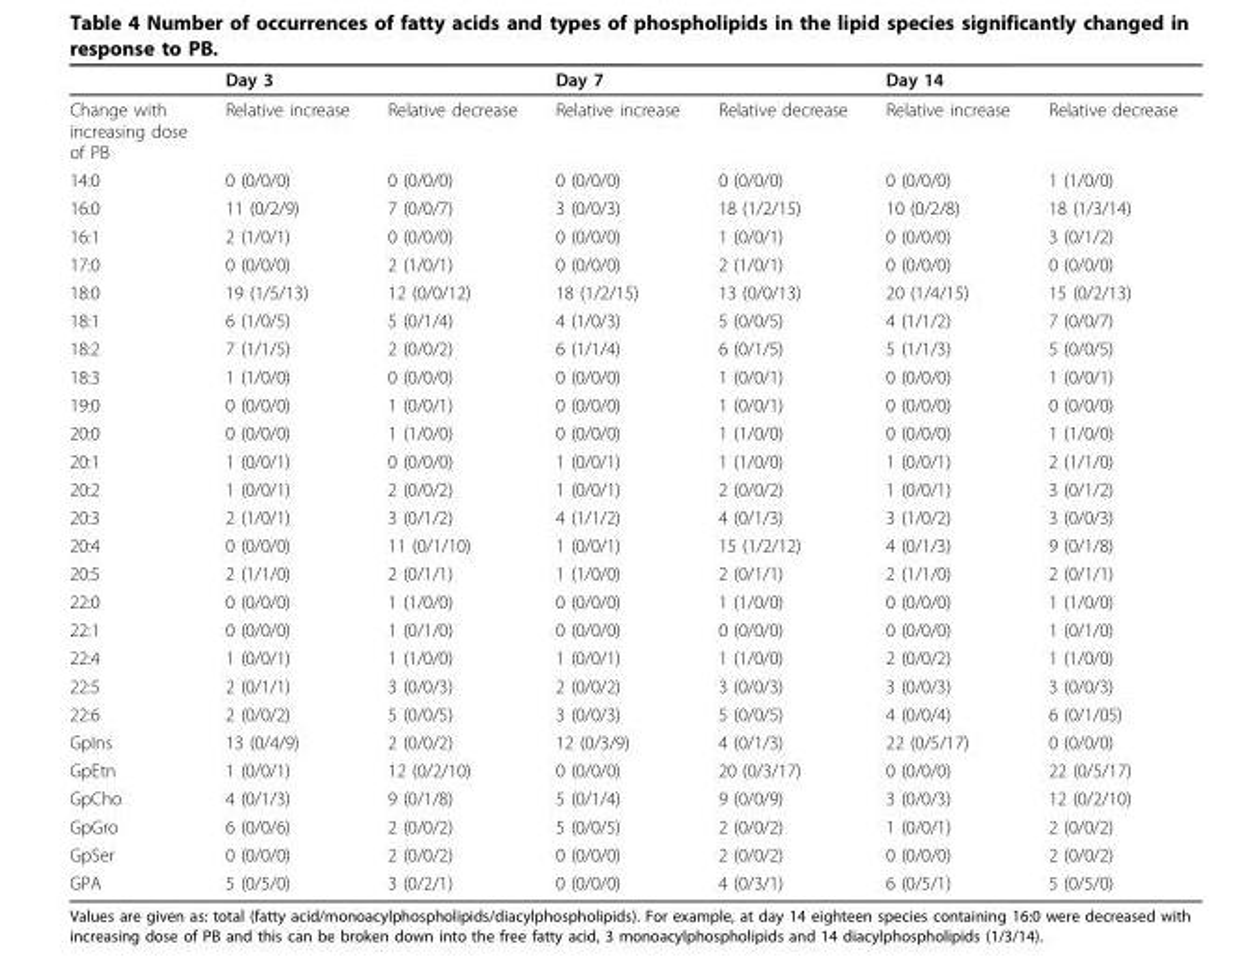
<table><thead><tr><td></td><td>Day 3</td><td></td><td>Day 7</td><td></td><td>Day 14</td><td></td></tr></thead><tbody><tr><td>Change with increasing dose of PB</td><td>Relative increase</td><td>Relative decrease</td><td>Relative increase</td><td>Relative decrease</td><td>Relative increase</td><td>Relative decrease</td></tr><tr><td>14:0</td><td>0 (0/0/0)</td><td>0 (0/0/0)</td><td>0 (0/0/0)</td><td>0 (0/0/0)</td><td>0 (0/0/0)</td><td>1 (1/0/0)</td></tr><tr><td>16:0</td><td>11 (0/2/9)</td><td>7 (0/0/7)</td><td>3 (0/0/3)</td><td>18 (1/2/15)</td><td>10 (0/2/8)</td><td>18 (1/3/14)</td></tr><tr><td>16:1</td><td>2 (1/0/1)</td><td>0 (0/0/0)</td><td>0 (0/0/0)</td><td>1 (0/0/1)</td><td>0 (0/0/0)</td><td>3 (0/1/2)</td></tr><tr><td>17:0</td><td>0 (0/0/0)</td><td>2 (1/0/1)</td><td>0 (0/0/0)</td><td>2 (1/0/1)</td><td>0 (0/0/0)</td><td>0 (0/0/0)</td></tr><tr><td>18:0</td><td>19 (1/5/13)</td><td>12 (0/0/12)</td><td>18 (1/2/15)</td><td>13 (0/0/13)</td><td>20 (1/4/15)</td><td>15 (0/2/13)</td></tr><tr><td>18:1</td><td>6 (1/0/5)</td><td>5 (0/1/4)</td><td>4 (1/0/3)</td><td>5 (0/0/5)</td><td>4 (1/1/2)</td><td>7 (0/0/7)</td></tr><tr><td>18:2</td><td>7 (1/1/5)</td><td>2 (0/0/2)</td><td>6 (1/1/4)</td><td>6 (0/1/5)</td><td>5 (1/1/3)</td><td>5 (0/0/5)</td></tr><tr><td>18:3</td><td>1 (1/0/0)</td><td>0 (0/0/0)</td><td>0 (0/0/0)</td><td>1 (0/0/1)</td><td>0 (0/0/0)</td><td>1 (0/0/1)</td></tr><tr><td>19:0</td><td>0 (0/0/0)</td><td>1 (0/0/1)</td><td>0 (0/0/0)</td><td>1 (0/0/1)</td><td>0 (0/0/0)</td><td>0 (0/0/0)</td></tr><tr><td>20:0</td><td>0 (0/0/0)</td><td>1 (1/0/0)</td><td>0 (0/0/0)</td><td>1 (1/0/0)</td><td>0 (0/0/0)</td><td>1 (1/0/0)</td></tr><tr><td>20:1</td><td>1 (0/0/1)</td><td>0 (0/0/0)</td><td>1 (0/0/1)</td><td>1 (1/0/0)</td><td>1 (0/0/1)</td><td>2 (1/1/0)</td></tr><tr><td>20:2</td><td>1 (0/0/1)</td><td>2 (0/0/2)</td><td>1 (0/0/1)</td><td>2 (0/0/2)</td><td>1 (0/0/1)</td><td>3 (0/1/2)</td></tr><tr><td>20:3</td><td>2 (1/0/1)</td><td>3 (0/1/2)</td><td>4 (1/1/2)</td><td>4 (0/1/3)</td><td>3 (1/0/2)</td><td>3 (0/0/3)</td></tr><tr><td>20:4</td><td>0 (0/0/0)</td><td>11 (0/1/10)</td><td>1 (0/0/1)</td><td>15 (1/2/12)</td><td>4 (0/1/3)</td><td>9 (0/1/8)</td></tr><tr><td>20:5</td><td>2 (1/1/0)</td><td>2 (0/1/1)</td><td>1 (1/0/0)</td><td>2 (0/1/1)</td><td>2 (1/1/0)</td><td>2 (0/1/1)</td></tr><tr><td>22:0</td><td>0 (0/0/0)</td><td>1 (1/0/0)</td><td>0 (0/0/0)</td><td>1 (1/0/0)</td><td>0 (0/0/0)</td><td>1 (1/0/0)</td></tr><tr><td>22:1</td><td>0 (0/0/0)</td><td>1 (0/1/0)</td><td>0 (0/0/0)</td><td>0 (0/0/0)</td><td>0 (0/0/0)</td><td>1 (0/1/0)</td></tr><tr><td>22:4</td><td>1 (0/0/1)</td><td>1 (1/0/0)</td><td>1 (0/0/1)</td><td>1 (1/0/0)</td><td>2 (0/0/2)</td><td>1 (1/0/0)</td></tr><tr><td>22:5</td><td>2 (0/1/1)</td><td>3 (0/0/3)</td><td>2 (0/0/2)</td><td>3 (0/0/3)</td><td>3 (0/0/3)</td><td>3 (0/0/3)</td></tr><tr><td>22:6</td><td>2 (0/0/2)</td><td>5 (0/0/5)</td><td>3 (0/0/3)</td><td>5 (0/0/5)</td><td>4 (0/0/4)</td><td>6 (0/1/05)</td></tr><tr><td>GpIns</td><td>13 (0/4/9)</td><td>2 (0/0/2)</td><td>12 (0/3/9)</td><td>4 (0/1/3)</td><td>22 (0/5/17)</td><td>0 (0/0/0)</td></tr><tr><td>GpEtn</td><td>1 (0/0/1)</td><td>12 (0/2/10)</td><td>0 (0/0/0)</td><td>20 (0/3/17)</td><td>0 (0/0/0)</td><td>22 (0/5/17)</td></tr><tr><td>GpCho</td><td>4 (0/1/3)</td><td>9 (0/1/8)</td><td>5 (0/1/4)</td><td>9 (0/0/9)</td><td>3 (0/0/3)</td><td>12 (0/2/10)</td></tr><tr><td>GpGro</td><td>6 (0/0/6)</td><td>2 (0/0/2)</td><td>5 (0/0/5)</td><td>2 (0/0/2)</td><td>1 (0/0/1)</td><td>2 (0/0/2)</td></tr><tr><td>GpSer</td><td>0 (0/0/0)</td><td>2 (0/0/2)</td><td>0 (0/0/0)</td><td>2 (0/0/2)</td><td>0 (0/0/0)</td><td>2 (0/0/2)</td></tr><tr><td>GPA</td><td>5 (0/5/0)</td><td>3 (0/2/1)</td><td>0 (0/0/0)</td><td>4 (0/3/1)</td><td>6 (0/5/1)</td><td>5 (0/5/0)</td></tr></tbody></table>